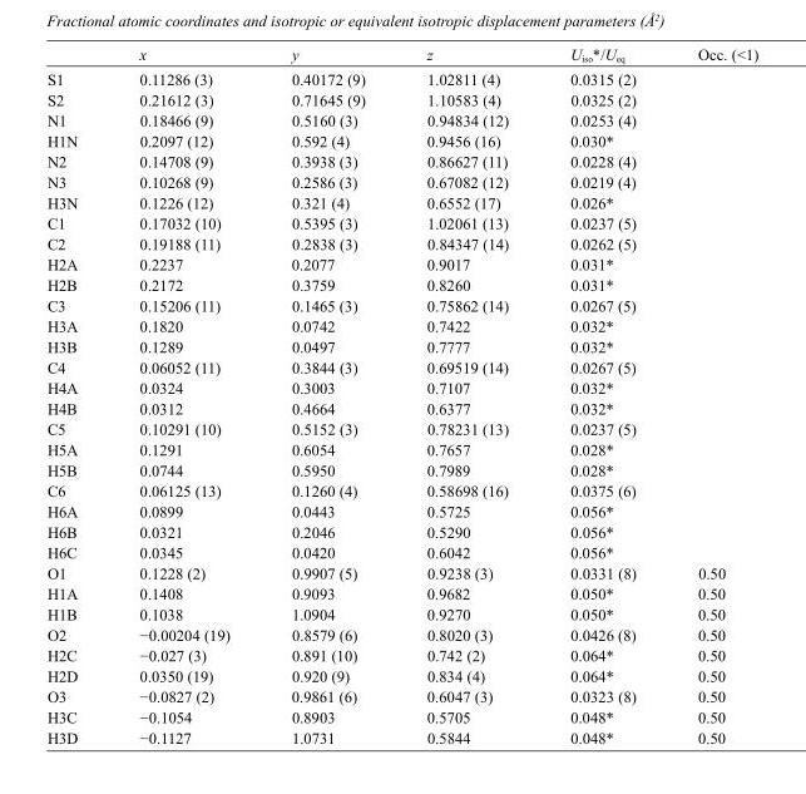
<table><thead><tr><td></td><td>x</td><td>y</td><td>z</td><td>U<sub>iso</sub>*/U<sub>eq</sub></td><td>Occ. (&lt;1)</td></tr></thead><tbody><tr><td>S1</td><td>0.11286 (3)</td><td>0.40172 (9)</td><td>1.02811 (4)</td><td>0.0315 (2)</td><td></td></tr><tr><td>S2</td><td>0.21612 (3)</td><td>0.71645 (9)</td><td>1.10583 (4)</td><td>0.0325 (2)</td><td></td></tr><tr><td>N1</td><td>0.18466 (9)</td><td>0.5160 (3)</td><td>0.94834 (12)</td><td>0.0253 (4)</td><td></td></tr><tr><td>H1N</td><td>0.2097 (12)</td><td>0.592 (4)</td><td>0.9456 (16)</td><td>0.030*</td><td></td></tr><tr><td>N2</td><td>0.14708 (9)</td><td>0.3938 (3)</td><td>0.86627 (11)</td><td>0.0228 (4)</td><td></td></tr><tr><td>N3</td><td>0.10268 (9)</td><td>0.2586 (3)</td><td>0.67082 (12)</td><td>0.0219 (4)</td><td></td></tr><tr><td>H3N</td><td>0.1226 (12)</td><td>0.321 (4)</td><td>0.6552 (17)</td><td>0.026*</td><td></td></tr><tr><td>C1</td><td>0.17032 (10)</td><td>0.5395 (3)</td><td>1.02061 (13)</td><td>0.0237 (5)</td><td></td></tr><tr><td>C2</td><td>0.19188 (11)</td><td>0.2838 (3)</td><td>0.84347 (14)</td><td>0.0262 (5)</td><td></td></tr><tr><td>H2A</td><td>0.2237</td><td>0.2077</td><td>0.9017</td><td>0.031*</td><td></td></tr><tr><td>H2B</td><td>0.2172</td><td>0.3759</td><td>0.8260</td><td>0.031*</td><td></td></tr><tr><td>C3</td><td>0.15206 (11)</td><td>0.1465 (3)</td><td>0.75862 (14)</td><td>0.0267 (5)</td><td></td></tr><tr><td>H3A</td><td>0.1820</td><td>0.0742</td><td>0.7422</td><td>0.032*</td><td></td></tr><tr><td>H3B</td><td>0.1289</td><td>0.0497</td><td>0.7777</td><td>0.032*</td><td></td></tr><tr><td>C4</td><td>0.06052 (11)</td><td>0.3844 (3)</td><td>0.69519 (14)</td><td>0.0267 (5)</td><td></td></tr><tr><td>H4A</td><td>0.0324</td><td>0.3003</td><td>0.7107</td><td>0.032*</td><td></td></tr><tr><td>H4B</td><td>0.0312</td><td>0.4664</td><td>0.6377</td><td>0.032*</td><td></td></tr><tr><td>C5</td><td>0.10291 (10)</td><td>0.5152 (3)</td><td>0.78231 (13)</td><td>0.0237 (5)</td><td></td></tr><tr><td>H5A</td><td>0.1291</td><td>0.6054</td><td>0.7657</td><td>0.028*</td><td></td></tr><tr><td>H5B</td><td>0.0744</td><td>0.5950</td><td>0.7989</td><td>0.028*</td><td></td></tr><tr><td>C6</td><td>0.06125 (13)</td><td>0.1260 (4)</td><td>0.58698 (16)</td><td>0.0375 (6)</td><td></td></tr><tr><td>H6A</td><td>0.0899</td><td>0.0443</td><td>0.5725</td><td>0.056*</td><td></td></tr><tr><td>H6B</td><td>0.0321</td><td>0.2046</td><td>0.5290</td><td>0.056*</td><td></td></tr><tr><td>H6C</td><td>0.0345</td><td>0.0420</td><td>0.6042</td><td>0.056*</td><td></td></tr><tr><td>O1</td><td>0.1228 (2)</td><td>0.9907 (5)</td><td>0.9238 (3)</td><td>0.0331 (8)</td><td>0.50</td></tr><tr><td>H1A</td><td>0.1408</td><td>0.9093</td><td>0.9682</td><td>0.050*</td><td>0.50</td></tr><tr><td>H1B</td><td>0.1038</td><td>1.0904</td><td>0.9270</td><td>0.050*</td><td>0.50</td></tr><tr><td>O2</td><td>−0.00204 (19)</td><td>0.8579 (6)</td><td>0.8020 (3)</td><td>0.0426 (8)</td><td>0.50</td></tr><tr><td>H2C</td><td>−0.027 (3)</td><td>0.891 (10)</td><td>0.742 (2)</td><td>0.064*</td><td>0.50</td></tr><tr><td>H2D</td><td>0.0350 (19)</td><td>0.920 (9)</td><td>0.834 (4)</td><td>0.064*</td><td>0.50</td></tr><tr><td>O3</td><td>−0.0827 (2)</td><td>0.9861 (6)</td><td>0.6047 (3)</td><td>0.0323 (8)</td><td>0.50</td></tr><tr><td>H3C</td><td>−0.1054</td><td>0.8903</td><td>0.5705</td><td>0.048*</td><td>0.50</td></tr><tr><td>H3D</td><td>−0.1127</td><td>1.0731</td><td>0.5844</td><td>0.048*</td><td>0.50</td></tr></tbody></table>